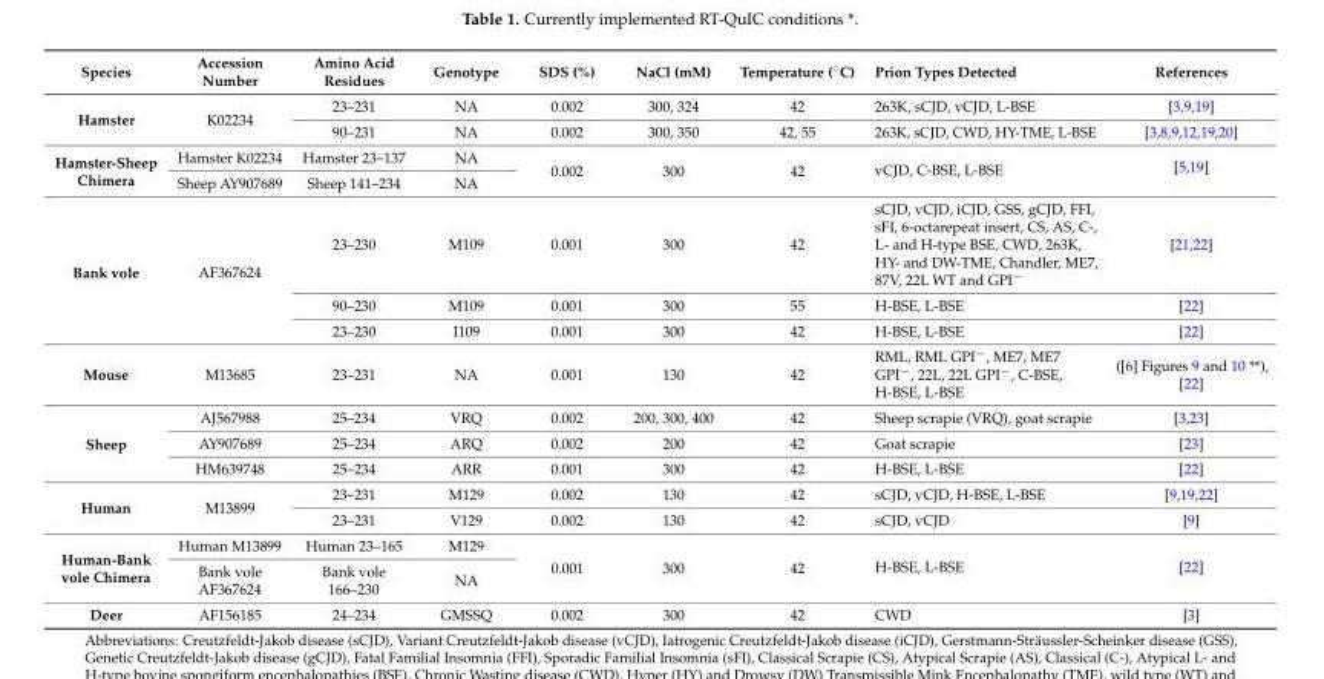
<table><thead><tr><td>Species</td><td>Accession Number</td><td>Amino Acid Residues</td><td>Genotype</td><td>SDS (%)</td><td>NaCl (mM)</td><td>Temperature (˝C)</td><td>Prion Types Detected</td><td>References</td></tr></thead><tbody><tr><td rowspan="2">Hamster</td><td rowspan="2">K02234</td><td>23–231</td><td>NA</td><td>0.002</td><td>300, 324</td><td>42</td><td>263K, sCJD, vCJD, L-BSE</td><td>[3,9,19]</td></tr><tr><td>90–231</td><td>NA</td><td>0.002</td><td>300, 350</td><td>42, 55</td><td>263K, sCJD, CWD, HY-TME, L-BSE</td><td>[3,8,9,12,19,20]</td></tr><tr><td rowspan="2">Hamster-Sheep Chimera</td><td>Hamster K02234</td><td>Hamster 23–137</td><td>NA</td><td rowspan="2">0.002</td><td rowspan="2">300</td><td rowspan="2">42</td><td rowspan="2">vCJD, C-BSE, L-BSE</td><td rowspan="2">[5,19]</td></tr><tr><td>Sheep AY907689</td><td>Sheep 141–234</td><td>NA</td></tr><tr><td rowspan="3">Bank vole</td><td rowspan="3">AF367624</td><td>23–230</td><td>M109</td><td>0.001</td><td>300</td><td>42</td><td>sCJD, vCJD, iCJD, GSS, gCJD, FFI, sFI, 6-octarepeat insert, CS, AS, C-, L- and H-type BSE, CWD, 263K, HY- and DW-TME, Chandler, ME7, 87V, 22L WT and GPI<sup>−</sup></td><td>[21,22]</td></tr><tr><td>90–230</td><td>M109</td><td>0.001</td><td>300</td><td>55</td><td>H-BSE, L-BSE</td><td>[22]</td></tr><tr><td>23–230</td><td>I109</td><td>0.001</td><td>300</td><td>42</td><td>H-BSE, L-BSE</td><td>[22]</td></tr><tr><td>Mouse</td><td>M13685</td><td>23–231</td><td>NA</td><td>0.001</td><td>130</td><td>42</td><td>RML, RML GPI<sup>−</sup>, ME7, ME7 GPI<sup>−</sup>, 22L, 22L GPI<sup>−</sup>, C-BSE, H-BSE, L-BSE</td><td>([6] Figures 9 and 10 **), [22]</td></tr><tr><td rowspan="3">Sheep</td><td>AJ567988</td><td>25–234</td><td>VRQ</td><td>0.002</td><td>200, 300, 400</td><td>42</td><td>Sheep scrapie (VRQ), goat scrapie</td><td>[3,23]</td></tr><tr><td>AY907689</td><td>25–234</td><td>ARQ</td><td>0.002</td><td>200</td><td>42</td><td>Goat scrapie</td><td>[23]</td></tr><tr><td>HM639748</td><td>25–234</td><td>ARR</td><td>0.001</td><td>300</td><td>42</td><td>H-BSE, L-BSE</td><td>[22]</td></tr><tr><td rowspan="2">Human</td><td rowspan="2">M13899</td><td>23–231</td><td>M129</td><td>0.002</td><td>130</td><td>42</td><td>sCJD, vCJD, H-BSE, L-BSE</td><td>[9,19,22]</td></tr><tr><td>23–231</td><td>V129</td><td>0.002</td><td>130</td><td>42</td><td>sCJD, vCJD</td><td>[9]</td></tr><tr><td rowspan="2">Human-Bank vole Chimera</td><td>Human M13899</td><td>Human 23–165</td><td>M129</td><td rowspan="2">0.001</td><td rowspan="2">300</td><td rowspan="2">42</td><td rowspan="2">H-BSE, L-BSE</td><td rowspan="2">[22]</td></tr><tr><td>Bank vole AF367624</td><td>Bank vole 166–230</td><td>NA</td></tr><tr><td>Deer</td><td>AF156185</td><td>24–234</td><td>GMSSQ</td><td>0.002</td><td>300</td><td>42</td><td>CWD</td><td>[3]</td></tr></tbody></table>